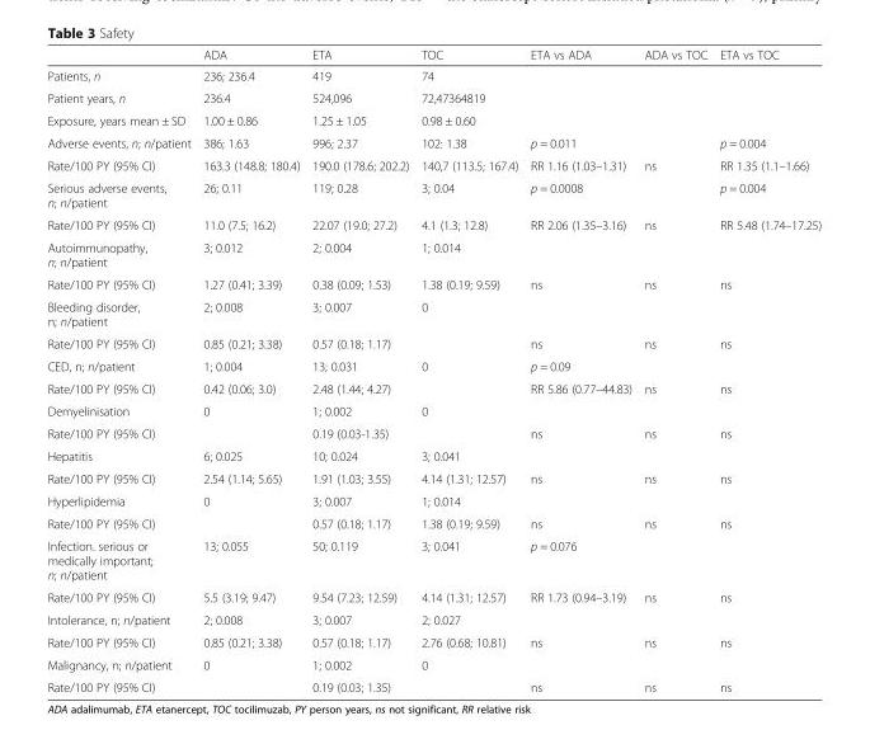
<table><thead><tr><td></td><td>ADA</td><td>ETA</td><td>TOC</td><td>ETA vs ADA</td><td>ADA vs TOC</td><td>ETA vs TOC</td></tr></thead><tbody><tr><td>Patients, n</td><td>236; 236.4</td><td>419</td><td>74</td><td></td><td></td><td></td></tr><tr><td>Patient years, n</td><td>236.4</td><td>524,096</td><td>72,47364819</td><td></td><td></td><td></td></tr><tr><td>Exposure, years mean ± SD</td><td>1.00 ± 0.86</td><td>1.25 ± 1.05</td><td>0.98 ± 0.60</td><td></td><td></td><td></td></tr><tr><td>Adverse events, n; n/patient</td><td>386; 1.63</td><td>996; 2.37</td><td>102: 1.38</td><td>p = 0.011</td><td></td><td>p = 0.004</td></tr><tr><td>Rate/100 PY (95% CI)</td><td>163.3 (148.8; 180.4)</td><td>190.0 (178.6; 202.2)</td><td>140,7 (113.5; 167.4)</td><td>RR 1.16 (1.03–1.31)</td><td>ns</td><td>RR 1.35 (1.1–1.66)</td></tr><tr><td>Serious adverse events, n; n/patient</td><td>26; 0.11</td><td>119; 0.28</td><td>3; 0.04</td><td>p = 0.0008</td><td></td><td>p = 0.004</td></tr><tr><td>Rate/100 PY (95% CI)</td><td>11.0 (7.5; 16.2)</td><td>22.07 (19.0; 27.2)</td><td>4.1 (1.3; 12.8)</td><td>RR 2.06 (1.35–3.16)</td><td>ns</td><td>RR 5.48 (1.74–17.25)</td></tr><tr><td>Autoimmunopathy, n; n/patient</td><td>3; 0.012</td><td>2; 0.004</td><td>1; 0.014</td><td></td><td></td><td></td></tr><tr><td>Rate/100 PY (95% CI)</td><td>1.27 (0.41; 3.39)</td><td>0.38 (0.09; 1.53)</td><td>1.38 (0.19; 9.59)</td><td>ns</td><td>ns</td><td>ns</td></tr><tr><td>Bleeding disorder, n; n/patient</td><td>2; 0.008</td><td>3; 0.007</td><td>0</td><td></td><td></td><td></td></tr><tr><td>Rate/100 PY (95% CI)</td><td>0.85 (0.21; 3.38)</td><td>0.57 (0.18; 1.17)</td><td></td><td>ns</td><td>ns</td><td>ns</td></tr><tr><td>CED, n; n/patient</td><td>1; 0.004</td><td>13; 0.031</td><td>0</td><td>p = 0.09</td><td></td><td></td></tr><tr><td>Rate/100 PY (95% CI)</td><td>0.42 (0.06; 3.0)</td><td>2.48 (1.44; 4.27)</td><td></td><td>RR 5.86 (0.77–44.83)</td><td>ns</td><td>ns</td></tr><tr><td>Demyelinisation</td><td>0</td><td>1; 0.002</td><td>0</td><td></td><td></td><td></td></tr><tr><td>Rate/100 PY (95% CI)</td><td></td><td>0.19 (0.03-1.35)</td><td></td><td>ns</td><td>ns</td><td>ns</td></tr><tr><td>Hepatitis</td><td>6; 0.025</td><td>10; 0.024</td><td>3; 0.041</td><td></td><td></td><td></td></tr><tr><td>Rate/100 PY (95% CI)</td><td>2.54 (1.14; 5.65)</td><td>1.91 (1.03; 3.55)</td><td>4.14 (1.31; 12.57)</td><td>ns</td><td>ns</td><td>ns</td></tr><tr><td>Hyperlipidemia</td><td>0</td><td>3; 0.007</td><td>1; 0.014</td><td></td><td></td><td></td></tr><tr><td>Rate/100 PY (95% CI)</td><td></td><td>0.57 (0.18; 1.17)</td><td>1.38 (0.19; 9.59)</td><td>ns</td><td>ns</td><td>ns</td></tr><tr><td>Infection. serious or medically important; n; n/patient</td><td>13; 0.055</td><td>50; 0.119</td><td>3; 0.041</td><td>p = 0.076</td><td></td><td></td></tr><tr><td>Rate/100 PY (95% CI)</td><td>5.5 (3.19; 9.47)</td><td>9.54 (7.23; 12.59)</td><td>4.14 (1.31; 12.57)</td><td>RR 1.73 (0.94–3.19)</td><td>ns</td><td>ns</td></tr><tr><td>Intolerance, n; n/patient</td><td>2; 0.008</td><td>3; 0.007</td><td>2; 0.027</td><td></td><td></td><td></td></tr><tr><td>Rate/100 PY (95% CI)</td><td>0.85 (0.21; 3.38)</td><td>0.57 (0.18; 1.17)</td><td>2.76 (0.68; 10.81)</td><td>ns</td><td>ns</td><td>ns</td></tr><tr><td>Malignancy, n; n/patient</td><td>0</td><td>1; 0.002</td><td>0</td><td></td><td></td><td></td></tr><tr><td>Rate/100 PY (95% CI)</td><td></td><td>0.19 (0.03; 1.35)</td><td></td><td>ns</td><td>ns</td><td>ns</td></tr></tbody></table>